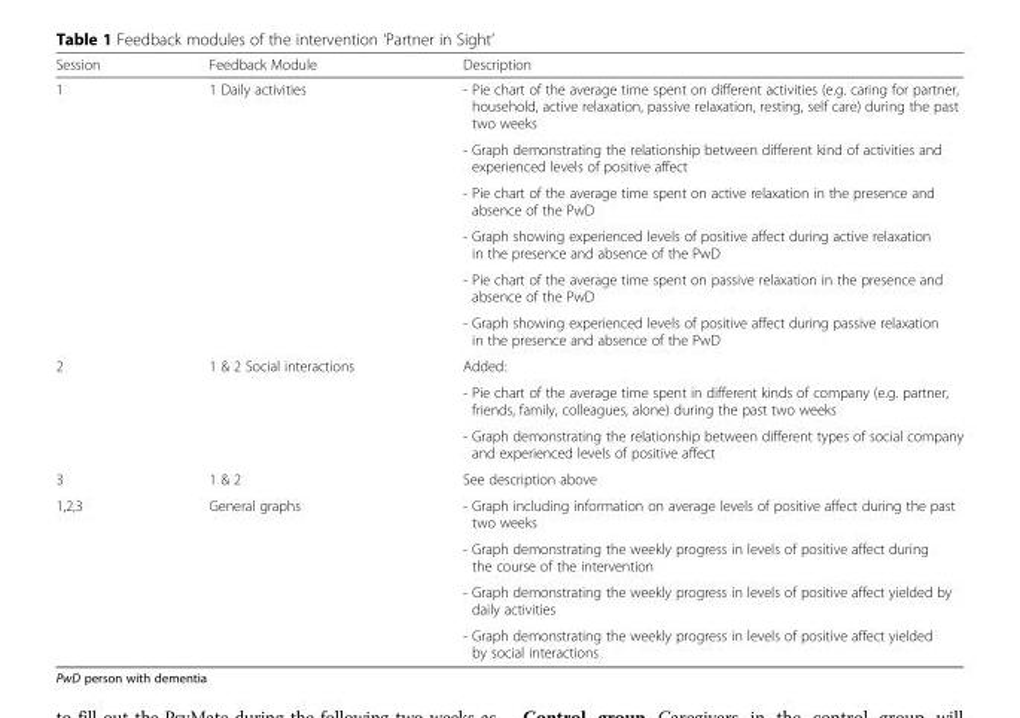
<table><thead><tr><td>Session</td><td>Feedback Module</td><td>Description</td></tr></thead><tbody><tr><td rowspan="6">1</td><td>1 Daily activities</td><td>- Pie chart of the average time spent on different activities (e.g. caring for partner, household, active relaxation, passive relaxation, resting, self care) during the past two weeks</td></tr><tr><td></td><td>- Graph demonstrating the relationship between different kind of activities and experienced levels of positive affect</td></tr><tr><td></td><td>- Pie chart of the average time spent on active relaxation in the presence and absence of the PwD</td></tr><tr><td></td><td>- Graph showing experienced levels of positive affect during active relaxation in the presence and absence of the PwD</td></tr><tr><td></td><td>- Pie chart of the average time spent on passive relaxation in the presence and absence of the PwD</td></tr><tr><td></td><td>- Graph showing experienced levels of positive affect during passive relaxation in the presence and absence of the PwD</td></tr><tr><td rowspan="3">2</td><td>1 &amp; 2 Social interactions</td><td>Added:</td></tr><tr><td></td><td>- Pie chart of the average time spent in different kinds of company (e.g. partner, friends, family, colleagues, alone) during the past two weeks</td></tr><tr><td></td><td>- Graph demonstrating the relationship between different types of social company and experienced levels of positive affect</td></tr><tr><td>3</td><td>1 &amp; 2</td><td>See description above</td></tr><tr><td rowspan="4">1,2,3</td><td>General graphs</td><td>- Graph including information on average levels of positive affect during the past two weeks</td></tr><tr><td></td><td>- Graph demonstrating the weekly progress in levels of positive affect during the course of the intervention</td></tr><tr><td></td><td>- Graph demonstrating the weekly progress in levels of positive affect yielded by daily activities</td></tr><tr><td></td><td>- Graph demonstrating the weekly progress in levels of positive affect yielded by social interactions</td></tr></tbody></table>